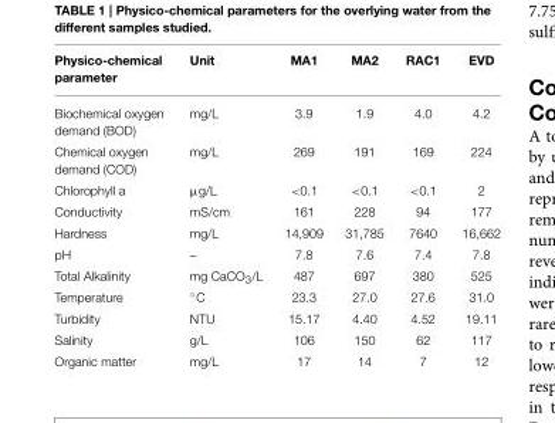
<table><thead><tr><td>Physico-chemical parameter</td><td>Unit</td><td>MA1</td><td>MA2</td><td>RAC1</td><td>EVD</td></tr></thead><tbody><tr><td>Biochemical oxygen demand (BOD)</td><td>mg/L</td><td>3.9</td><td>1.9</td><td>4.0</td><td>4.2</td></tr><tr><td>Chemical oxygen demand (COD)</td><td>mg/L</td><td>269</td><td>191</td><td>169</td><td>224</td></tr><tr><td>Chlorophyll a</td><td>µg/L</td><td>&lt;0.1</td><td>&lt;0.1</td><td>&lt;0.1</td><td>2</td></tr><tr><td>Conductivity</td><td>mS/cm</td><td>161</td><td>228</td><td>94</td><td>177</td></tr><tr><td>Hardness</td><td>mg/L</td><td>14,909</td><td>31,785</td><td>7640</td><td>16,662</td></tr><tr><td>pH</td><td>–</td><td>7.8</td><td>7.6</td><td>7.4</td><td>7.8</td></tr><tr><td>Total Alkalinity</td><td>mg CaCO<sub>3</sub>/L</td><td>487</td><td>697</td><td>380</td><td>525</td></tr><tr><td>Temperature</td><td>◦C</td><td>23.3</td><td>27.0</td><td>27.6</td><td>31.0</td></tr><tr><td>Turbidity</td><td>NTU</td><td>15.17</td><td>4.40</td><td>4.52</td><td>19.11</td></tr><tr><td>Salinity</td><td>g/L</td><td>106</td><td>150</td><td>62</td><td>117</td></tr><tr><td>Organic matter</td><td>mg/L</td><td>17</td><td>14</td><td>7</td><td>12</td></tr></tbody></table>